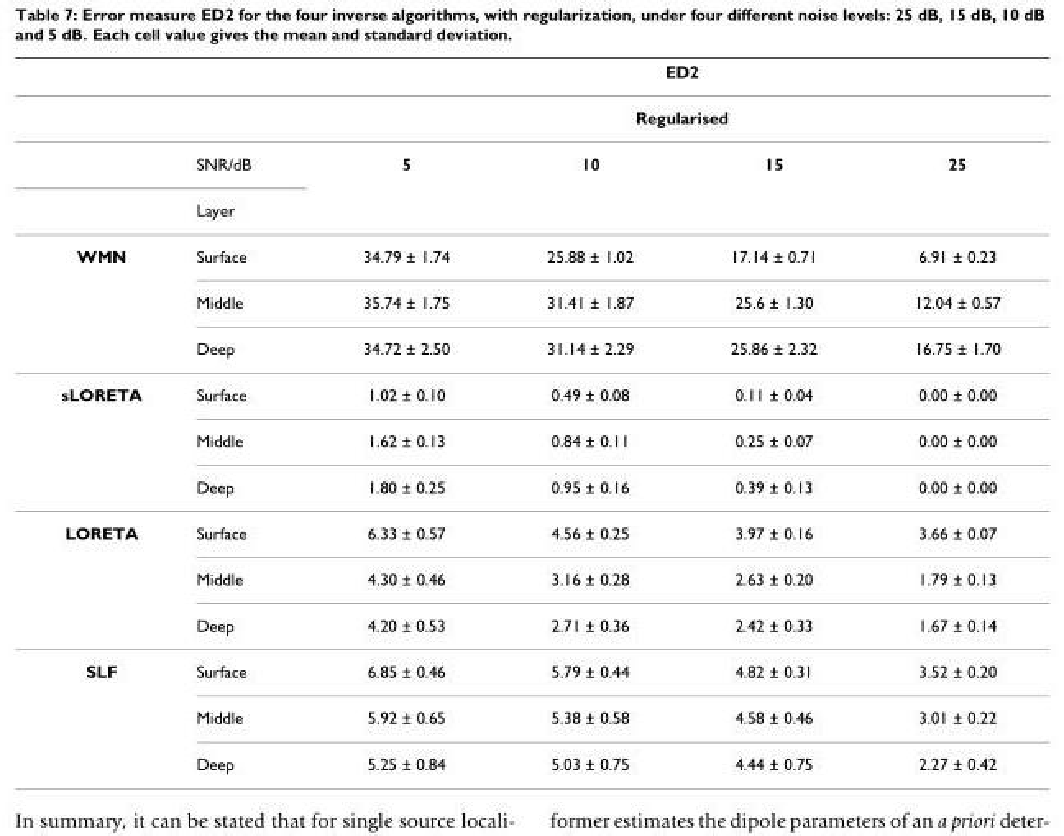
<table><thead><tr><td rowspan="3"></td><td rowspan="3">SNR/dB</td><td rowspan="2" colspan="4">ED2 Regularised</td></tr><tr></tr><tr><td>5</td><td>10</td><td>15</td><td>25</td></tr></thead><tbody><tr><td></td><td>Layer</td><td></td><td></td><td></td><td></td></tr><tr><td rowspan="3">WMN</td><td>Surface</td><td>34.79 ± 1.74</td><td>25.88 ± 1.02</td><td>17.14 ± 0.71</td><td>6.91 ± 0.23</td></tr><tr><td>Middle</td><td>35.74 ± 1.75</td><td>31.41 ± 1.87</td><td>25.6 ± 1.30</td><td>12.04 ± 0.57</td></tr><tr><td>Deep</td><td>34.72 ± 2.50</td><td>31.14 ± 2.29</td><td>25.86 ± 2.32</td><td>16.75 ± 1.70</td></tr><tr><td rowspan="3">sLORETA</td><td>Surface</td><td>1.02 ± 0.10</td><td>0.49 ± 0.08</td><td>0.11 ± 0.04</td><td>0.00 ± 0.00</td></tr><tr><td>Middle</td><td>1.62 ± 0.13</td><td>0.84 ± 0.11</td><td>0.25 ± 0.07</td><td>0.00 ± 0.00</td></tr><tr><td>Deep</td><td>1.80 ± 0.25</td><td>0.95 ± 0.16</td><td>0.39 ± 0.13</td><td>0.00 ± 0.00</td></tr><tr><td rowspan="3">LORETA</td><td>Surface</td><td>6.33 ± 0.57</td><td>4.56 ± 0.25</td><td>3.97 ± 0.16</td><td>3.66 ± 0.07</td></tr><tr><td>Middle</td><td>4.30 ± 0.46</td><td>3.16 ± 0.28</td><td>2.63 ± 0.20</td><td>1.79 ± 0.13</td></tr><tr><td>Deep</td><td>4.20 ± 0.53</td><td>2.71 ± 0.36</td><td>2.42 ± 0.33</td><td>1.67 ± 0.14</td></tr><tr><td rowspan="3">SLF</td><td>Surface</td><td>6.85 ± 0.46</td><td>5.79 ± 0.44</td><td>4.82 ± 0.31</td><td>3.52 ± 0.20</td></tr><tr><td>Middle</td><td>5.92 ± 0.65</td><td>5.38 ± 0.58</td><td>4.58 ± 0.46</td><td>3.01 ± 0.22</td></tr><tr><td>Deep</td><td>5.25 ± 0.84</td><td>5.03 ± 0.75</td><td>4.44 ± 0.75</td><td>2.27 ± 0.42</td></tr></tbody></table>